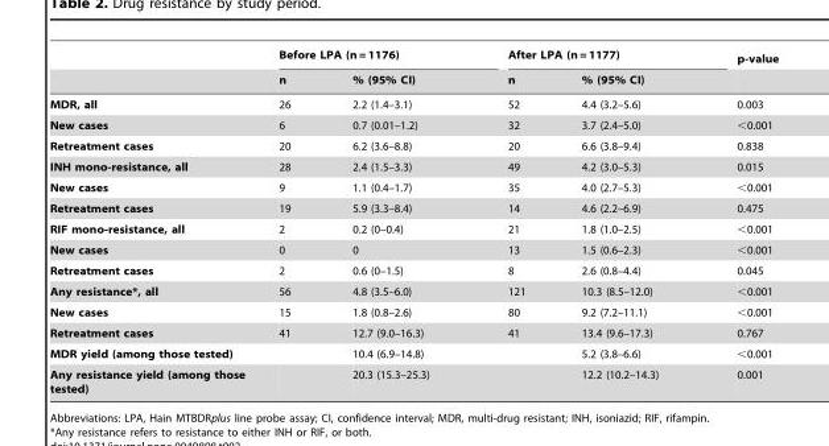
<table><thead><tr><td rowspan="2"></td><td colspan="2">Before LPA (n = 1176)</td><td colspan="2">After LPA (n = 1177)</td><td rowspan="2">p-value</td></tr><tr><td>n</td><td>% (95% CI)</td><td>n</td><td>% (95% CI)</td></tr></thead><tbody><tr><td>MDR, all</td><td>26</td><td>2.2 (1.4–3.1)</td><td>52</td><td>4.4 (3.2–5.6)</td><td>0.003</td></tr><tr><td>New cases</td><td>6</td><td>0.7 (0.01–1.2)</td><td>32</td><td>3.7 (2.4–5.0)</td><td>&lt;0.001</td></tr><tr><td>Retreatment cases</td><td>20</td><td>6.2 (3.6–8.8)</td><td>20</td><td>6.6 (3.8–9.4)</td><td>0.838</td></tr><tr><td>INH mono-resistance, all</td><td>28</td><td>2.4 (1.5–3.3)</td><td>49</td><td>4.2 (3.0–5.3)</td><td>0.015</td></tr><tr><td>New cases</td><td>9</td><td>1.1 (0.4–1.7)</td><td>35</td><td>4.0 (2.7–5.3)</td><td>&lt;0.001</td></tr><tr><td>Retreatment cases</td><td>19</td><td>5.9 (3.3–8.4)</td><td>14</td><td>4.6 (2.2–6.9)</td><td>0.475</td></tr><tr><td>RIF mono-resistance, all</td><td>2</td><td>0.2 (0–0.4)</td><td>21</td><td>1.8 (1.0–2.5)</td><td>&lt;0.001</td></tr><tr><td>New cases</td><td>0</td><td>0</td><td>13</td><td>1.5 (0.6–2.3)</td><td>&lt;0.001</td></tr><tr><td>Retreatment cases</td><td>2</td><td>0.6 (0–1.5)</td><td>8</td><td>2.6 (0.8–4.4)</td><td>0.045</td></tr><tr><td>Any resistance*, all</td><td>56</td><td>4.8 (3.5–6.0)</td><td>121</td><td>10.3 (8.5–12.0)</td><td>&lt;0.001</td></tr><tr><td>New cases</td><td>15</td><td>1.8 (0.8–2.6)</td><td>80</td><td>9.2 (7.2–11.1)</td><td>&lt;0.001</td></tr><tr><td>Retreatment cases</td><td>41</td><td>12.7 (9.0–16.3)</td><td>41</td><td>13.4 (9.6–17.3)</td><td>0.767</td></tr><tr><td>MDR yield (among those tested)</td><td></td><td>10.4 (6.9–14.8)</td><td></td><td>5.2 (3.8–6.6)</td><td>&lt;0.001</td></tr><tr><td>Any resistance yield (among those tested)</td><td></td><td>20.3 (15.3–25.3)</td><td></td><td>12.2 (10.2–14.3)</td><td>0.001</td></tr></tbody></table>